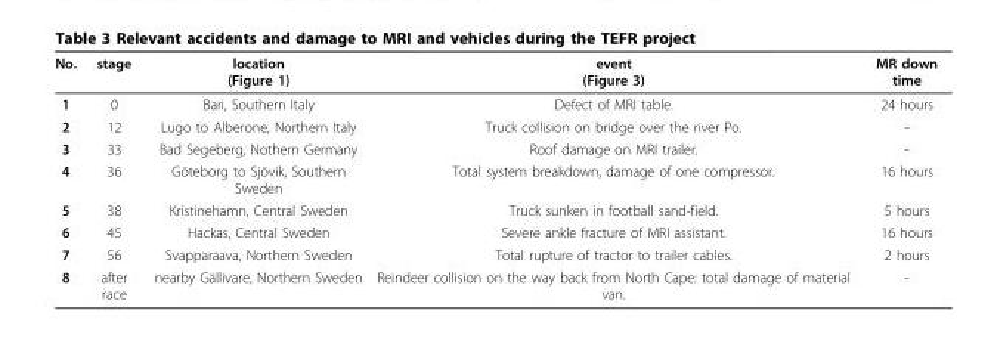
<table><thead><tr><td>No.</td><td>stage</td><td>location (Figure 1)</td><td>event (Figure 3)</td><td>MR down time</td></tr></thead><tbody><tr><td>1</td><td>0</td><td>Bari, Southern Italy</td><td>Defect of MRI table.</td><td>24 hours</td></tr><tr><td>2</td><td>12</td><td>Lugo to Alberone, Northern Italy</td><td>Truck collision on bridge over the river Po.</td><td>-</td></tr><tr><td>3</td><td>33</td><td>Bad Segeberg, Nothern Germany</td><td>Roof damage on MRI trailer.</td><td>-</td></tr><tr><td>4</td><td>36</td><td>Göteborg to Sjövik, Southern Sweden</td><td>Total system breakdown, damage of one compressor.</td><td>16 hours</td></tr><tr><td>5</td><td>38</td><td>Kristinehamn, Central Sweden</td><td>Truck sunken in football sand-field.</td><td>5 hours</td></tr><tr><td>6</td><td>45</td><td>Hackas, Central Sweden</td><td>Severe ankle fracture of MRI assistant.</td><td>16 hours</td></tr><tr><td>7</td><td>56</td><td>Svapparaava, Northern Sweden</td><td>Total rupture of tractor to trailer cables.</td><td>2 hours</td></tr><tr><td>8</td><td>after race</td><td>nearby Gällivare, Northern Sweden</td><td>Reindeer collision on the way back from North Cape: total damage of material van.</td><td>-</td></tr></tbody></table>